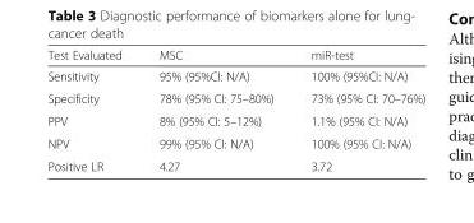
<table><thead><tr><td>Test Evaluated</td><td>MSC</td><td>miR-test</td></tr></thead><tbody><tr><td>Sensitivity</td><td>95% (95%CI: N/A)</td><td>100% (95%CI: N/A)</td></tr><tr><td>Specificity</td><td>78% (95% CI: 75–80%)</td><td>73% (95% CI: 70–76%)</td></tr><tr><td>PPV</td><td>8% (95% CI: 5–12%)</td><td>1.1% (95% CI: N/A)</td></tr><tr><td>NPV</td><td>99% (95% CI: N/A)</td><td>100% (95% CI: N/A)</td></tr><tr><td>Positive LR</td><td>4.27</td><td>3.72</td></tr></tbody></table>